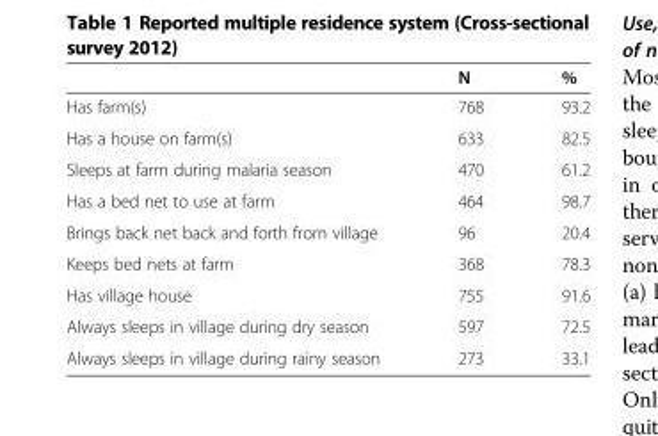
<table><thead><tr><td></td><td>N</td><td>%</td></tr></thead><tbody><tr><td>Has farm(s)</td><td>768</td><td>93.2</td></tr><tr><td>Has a house on farm(s)</td><td>633</td><td>82.5</td></tr><tr><td>Sleeps at farm during malaria season</td><td>470</td><td>61.2</td></tr><tr><td>Has a bed net to use at farm</td><td>464</td><td>98.7</td></tr><tr><td>Brings back net back and forth from village</td><td>96</td><td>20.4</td></tr><tr><td>Keeps bed nets at farm</td><td>368</td><td>78.3</td></tr><tr><td>Has village house</td><td>755</td><td>91.6</td></tr><tr><td>Always sleeps in village during dry season</td><td>597</td><td>72.5</td></tr><tr><td>Always sleeps in village during rainy season</td><td>273</td><td>33.1</td></tr></tbody></table>